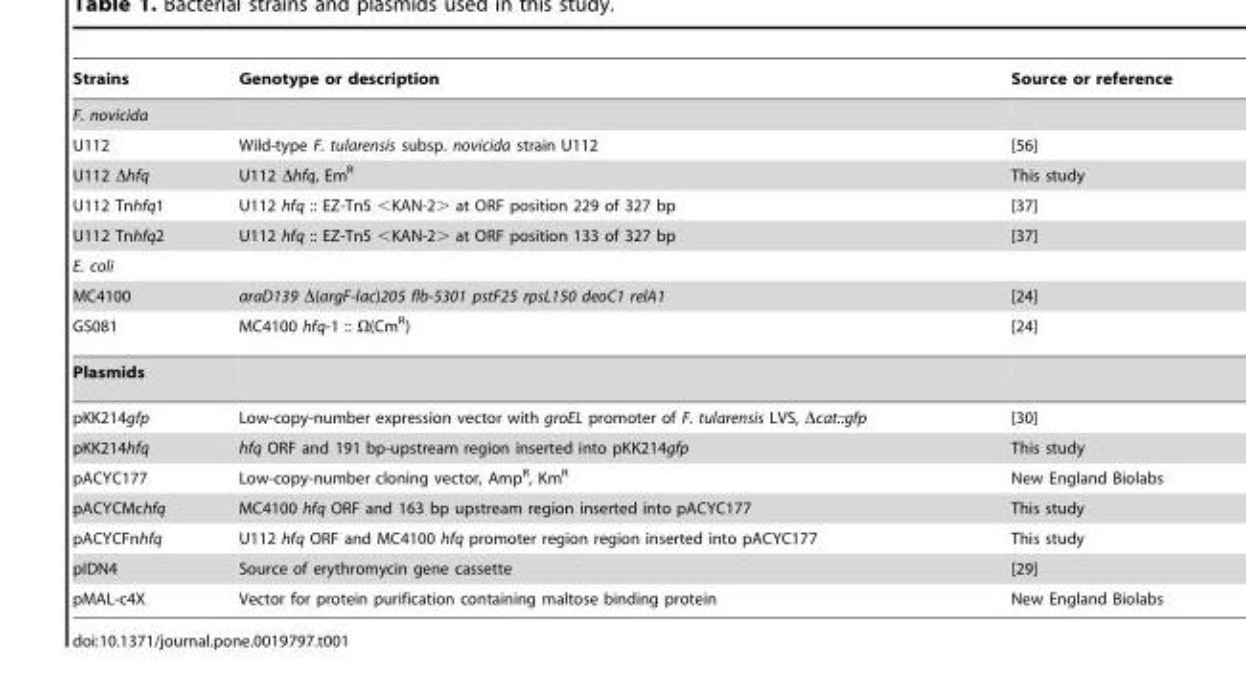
<table><thead><tr><td>Strains</td><td>Genotype or description</td><td>Source or reference</td></tr></thead><tbody><tr><td colspan="3">F. novicida</td></tr><tr><td>U112</td><td>Wild-type F. tularensis subsp. novicida strain U112</td><td>[56]</td></tr><tr><td>U112 Δhfq</td><td>U112 Δhfq, Em<sup>R</sup></td><td>This study</td></tr><tr><td>U112 Tnhfq1</td><td>U112 hfq :: EZ-Tn5 &lt;KAN-2&gt; at ORF position 229 of 327 bp</td><td>[37]</td></tr><tr><td>U112 Tnhfq2</td><td>U112 hfq :: EZ-Tn5 &lt;KAN-2&gt; at ORF position 133 of 327 bp</td><td>[37]</td></tr><tr><td colspan="3">E. coli</td></tr><tr><td>MC4100</td><td>araD139 Δ(argF-lac)205 flb-5301 pstF25 rpsL150 deoC1 relA1</td><td>[24]</td></tr><tr><td>GS081</td><td>MC4100 hfq-1 :: Ω(Cm<sup>R</sup>)</td><td>[24]</td></tr><tr><td colspan="3">Plasmids</td></tr><tr><td>pKK214gfp</td><td>Low-copy-number expression vector with groEL promoter of F. tularensis LVS, Δcat::gfp</td><td>[30]</td></tr><tr><td>pKK214hfq</td><td>hfq ORF and 191 bp-upstream region inserted into pKK214gfp</td><td>This study</td></tr><tr><td>pACYC177</td><td>Low-copy-number cloning vector, Amp<sup>R</sup>, Km<sup>R</sup></td><td>New England Biolabs</td></tr><tr><td>pACYCMchfq</td><td>MC4100 hfq ORF and 163 bp upstream region inserted into pACYC177</td><td>This study</td></tr><tr><td>pACYCFnhfq</td><td>U112 hfq ORF and MC4100 hfq promoter region region inserted into pACYC177</td><td>This study</td></tr><tr><td>pIDN4</td><td>Source of erythromycin gene cassette</td><td>[29]</td></tr><tr><td>pMAL-c4X</td><td>Vector for protein purification containing maltose binding protein</td><td>New England Biolabs</td></tr></tbody></table>